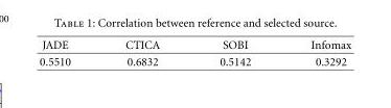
<table><thead><tr><td>JADE</td><td>CTICA</td><td>SOBI</td><td>Infomax</td></tr></thead><tbody><tr><td>0.5510</td><td>0.6832</td><td>0.5142</td><td>0.3292</td></tr></tbody></table>